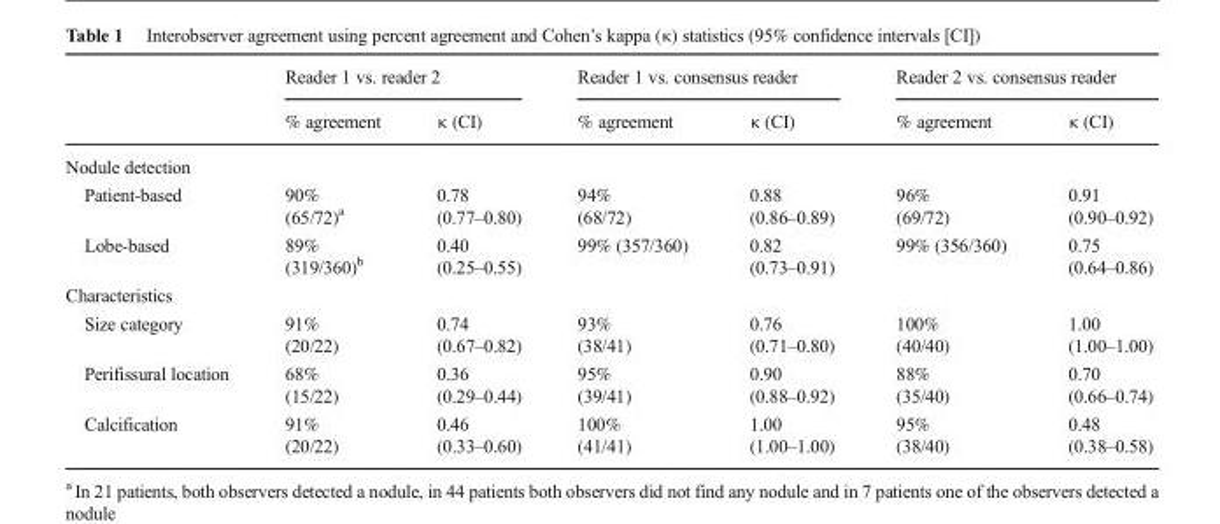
<table><thead><tr><td rowspan="2"></td><td colspan="2">Reader 1 vs. reader 2</td><td colspan="2">Reader 1 vs. consensus reader</td><td colspan="2">Reader 2 vs. consensus reader</td></tr><tr><td>% agreement</td><td>κ (CI)</td><td>% agreement</td><td>κ (CI)</td><td>% agreement</td><td>κ (CI)</td></tr></thead><tbody><tr><td colspan="7">Nodule detection</td></tr><tr><td>Patient-based</td><td>90% (65/72)<sup>a</sup></td><td>0.78 (0.77–0.80)</td><td>94% (68/72)</td><td>0.88 (0.86–0.89)</td><td>96% (69/72)</td><td>0.91 (0.90–0.92)</td></tr><tr><td>Lobe-based</td><td>89% (319/360)<sup>b</sup></td><td>0.40 (0.25–0.55)</td><td>99% (357/360)</td><td>0.82 (0.73–0.91)</td><td>99% (356/360)</td><td>0.75 (0.64–0.86)</td></tr><tr><td colspan="7">Characteristics</td></tr><tr><td>Size category</td><td>91% (20/22)</td><td>0.74 (0.67–0.82)</td><td>93% (38/41)</td><td>0.76 (0.71–0.80)</td><td>100% (40/40)</td><td>1.00 (1.00–1.00)</td></tr><tr><td>Perifissural location</td><td>68% (15/22)</td><td>0.36 (0.29–0.44)</td><td>95% (39/41)</td><td>0.90 (0.88–0.92)</td><td>88% (35/40)</td><td>0.70 (0.66–0.74)</td></tr><tr><td>Calcification</td><td>91% (20/22)</td><td>0.46 (0.33–0.60)</td><td>100% (41/41)</td><td>1.00 (1.00–1.00)</td><td>95% (38/40)</td><td>0.48 (0.38–0.58)</td></tr></tbody></table>